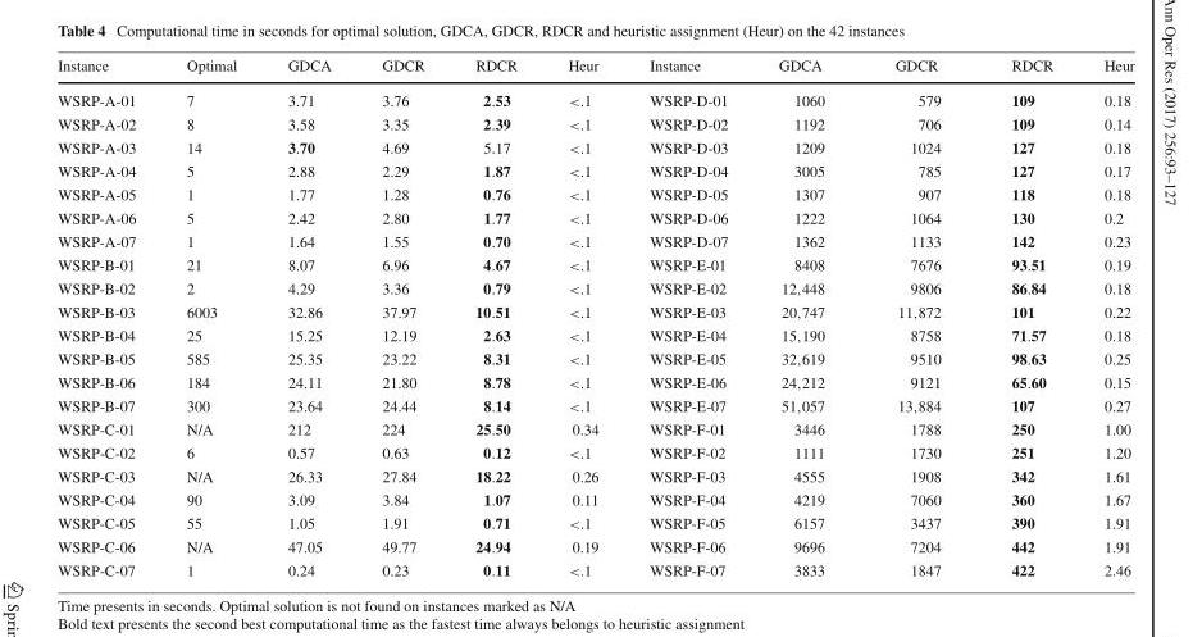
<table><thead><tr><td>Instance</td><td>Optimal</td><td>GDCA</td><td>GDCR</td><td>RDCR</td><td>Heur</td><td>Instance</td><td>GDCA</td><td>GDCR</td><td>RDCR</td><td>Heur</td></tr></thead><tbody><tr><td>WSRP-A-01</td><td>7</td><td>3.71</td><td>3.76</td><td>2.53</td><td>&lt;.1</td><td>WSRP-D-01</td><td>1060</td><td>579</td><td>109</td><td>0.18</td></tr><tr><td>WSRP-A-02</td><td>8</td><td>3.58</td><td>3.35</td><td>2.39</td><td>&lt;.1</td><td>WSRP-D-02</td><td>1192</td><td>706</td><td>109</td><td>0.14</td></tr><tr><td>WSRP-A-03</td><td>14</td><td>3.70</td><td>4.69</td><td>5.17</td><td>&lt;.1</td><td>WSRP-D-03</td><td>1209</td><td>1024</td><td>127</td><td>0.18</td></tr><tr><td>WSRP-A-04</td><td>5</td><td>2.88</td><td>2.29</td><td>1.87</td><td>&lt;.1</td><td>WSRP-D-04</td><td>3005</td><td>785</td><td>127</td><td>0.17</td></tr><tr><td>WSRP-A-05</td><td>1</td><td>1.77</td><td>1.28</td><td>0.76</td><td>&lt;.1</td><td>WSRP-D-05</td><td>1307</td><td>907</td><td>118</td><td>0.18</td></tr><tr><td>WSRP-A-06</td><td>5</td><td>2.42</td><td>2.80</td><td>1.77</td><td>&lt;.1</td><td>WSRP-D-06</td><td>1222</td><td>1064</td><td>130</td><td>0.2</td></tr><tr><td>WSRP-A-07</td><td>1</td><td>1.64</td><td>1.55</td><td>0.70</td><td>&lt;.1</td><td>WSRP-D-07</td><td>1362</td><td>1133</td><td>142</td><td>0.23</td></tr><tr><td>WSRP-B-01</td><td>21</td><td>8.07</td><td>6.96</td><td>4.67</td><td>&lt;.1</td><td>WSRP-E-01</td><td>8408</td><td>7676</td><td>93.51</td><td>0.19</td></tr><tr><td>WSRP-B-02</td><td>2</td><td>4.29</td><td>3.36</td><td>0.79</td><td>&lt;.1</td><td>WSRP-E-02</td><td>12,448</td><td>9806</td><td>86.84</td><td>0.18</td></tr><tr><td>WSRP-B-03</td><td>6003</td><td>32.86</td><td>37.97</td><td>10.51</td><td>&lt;.1</td><td>WSRP-E-03</td><td>20,747</td><td>11,872</td><td>101</td><td>0.22</td></tr><tr><td>WSRP-B-04</td><td>25</td><td>15.25</td><td>12.19</td><td>2.63</td><td>&lt;.1</td><td>WSRP-E-04</td><td>15,190</td><td>8758</td><td>71.57</td><td>0.18</td></tr><tr><td>WSRP-B-05</td><td>585</td><td>25.35</td><td>23.22</td><td>8.31</td><td>&lt;.1</td><td>WSRP-E-05</td><td>32,619</td><td>9510</td><td>98.63</td><td>0.25</td></tr><tr><td>WSRP-B-06</td><td>184</td><td>24.11</td><td>21.80</td><td>8.78</td><td>&lt;.1</td><td>WSRP-E-06</td><td>24,212</td><td>9121</td><td>65.60</td><td>0.15</td></tr><tr><td>WSRP-B-07</td><td>300</td><td>23.64</td><td>24.44</td><td>8.14</td><td>&lt;.1</td><td>WSRP-E-07</td><td>51,057</td><td>13,884</td><td>107</td><td>0.27</td></tr><tr><td>WSRP-C-01</td><td>N/A</td><td>212</td><td>224</td><td>25.50</td><td>0.34</td><td>WSRP-F-01</td><td>3446</td><td>1788</td><td>250</td><td>1.00</td></tr><tr><td>WSRP-C-02</td><td>6</td><td>0.57</td><td>0.63</td><td>0.12</td><td>&lt;.1</td><td>WSRP-F-02</td><td>1111</td><td>1730</td><td>251</td><td>1.20</td></tr><tr><td>WSRP-C-03</td><td>N/A</td><td>26.33</td><td>27.84</td><td>18.22</td><td>0.26</td><td>WSRP-F-03</td><td>4555</td><td>1908</td><td>342</td><td>1.61</td></tr><tr><td>WSRP-C-04</td><td>90</td><td>3.09</td><td>3.84</td><td>1.07</td><td>0.11</td><td>WSRP-F-04</td><td>4219</td><td>7060</td><td>360</td><td>1.67</td></tr><tr><td>WSRP-C-05</td><td>55</td><td>1.05</td><td>1.91</td><td>0.71</td><td>&lt;.1</td><td>WSRP-F-05</td><td>6157</td><td>3437</td><td>390</td><td>1.91</td></tr><tr><td>WSRP-C-06</td><td>N/A</td><td>47.05</td><td>49.77</td><td>24.94</td><td>0.19</td><td>WSRP-F-06</td><td>9696</td><td>7204</td><td>442</td><td>1.91</td></tr><tr><td>WSRP-C-07</td><td>1</td><td>0.24</td><td>0.23</td><td>0.11</td><td>&lt;.1</td><td>WSRP-F-07</td><td>3833</td><td>1847</td><td>422</td><td>2.46</td></tr></tbody></table>